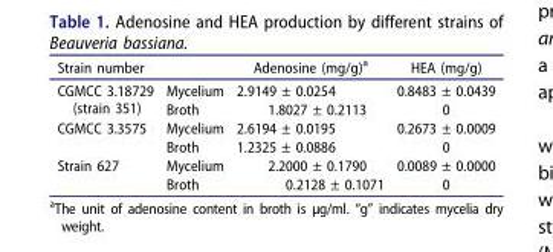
<table><thead><tr><td>Strain number</td><td></td><td>Adenosine (mg/g)<sup>a</sup></td><td>HEA (mg/g)</td></tr></thead><tbody><tr><td rowspan="2">CGMCC 3.18729 (strain 351)</td><td>Mycelium</td><td>2.9149 ± 0.0254</td><td>0.8483 ± 0.0439</td></tr><tr><td>Broth</td><td>1.8027 ± 0.2113</td><td>0</td></tr><tr><td rowspan="2">CGMCC 3.3575</td><td>Mycelium</td><td>2.6194 ± 0.0195</td><td>0.2673 ± 0.0009</td></tr><tr><td>Broth</td><td>1.2325 ± 0.0886</td><td>0</td></tr><tr><td rowspan="2">Strain 627</td><td>Mycelium</td><td>2.2000 ± 0.1790</td><td>0.0089 ± 0.0000</td></tr><tr><td>Broth</td><td>0.2128 ± 0.1071</td><td>0</td></tr></tbody></table>